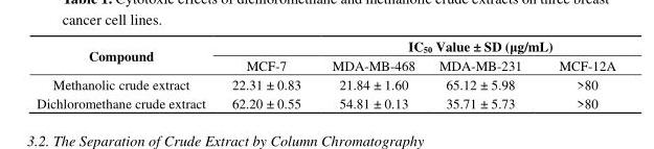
<table><thead><tr><td rowspan="2">Compound</td><td rowspan="2">MCF-7</td><td colspan="3">IC<sub>50</sub> Value ± SD (μg/mL)</td></tr><tr><td>MDA-MB-468</td><td>MDA-MB-231</td><td>MCF-12A</td></tr></thead><tbody><tr><td>Methanolic crude extract</td><td>22.31 ± 0.83</td><td>21.84 ± 1.60</td><td>65.12 ± 5.98</td><td>&gt;80</td></tr><tr><td>Dichloromethane crude extract</td><td>62.20 ± 0.55</td><td>54.81 ± 0.13</td><td>35.71 ± 5.73</td><td>&gt;80</td></tr></tbody></table>